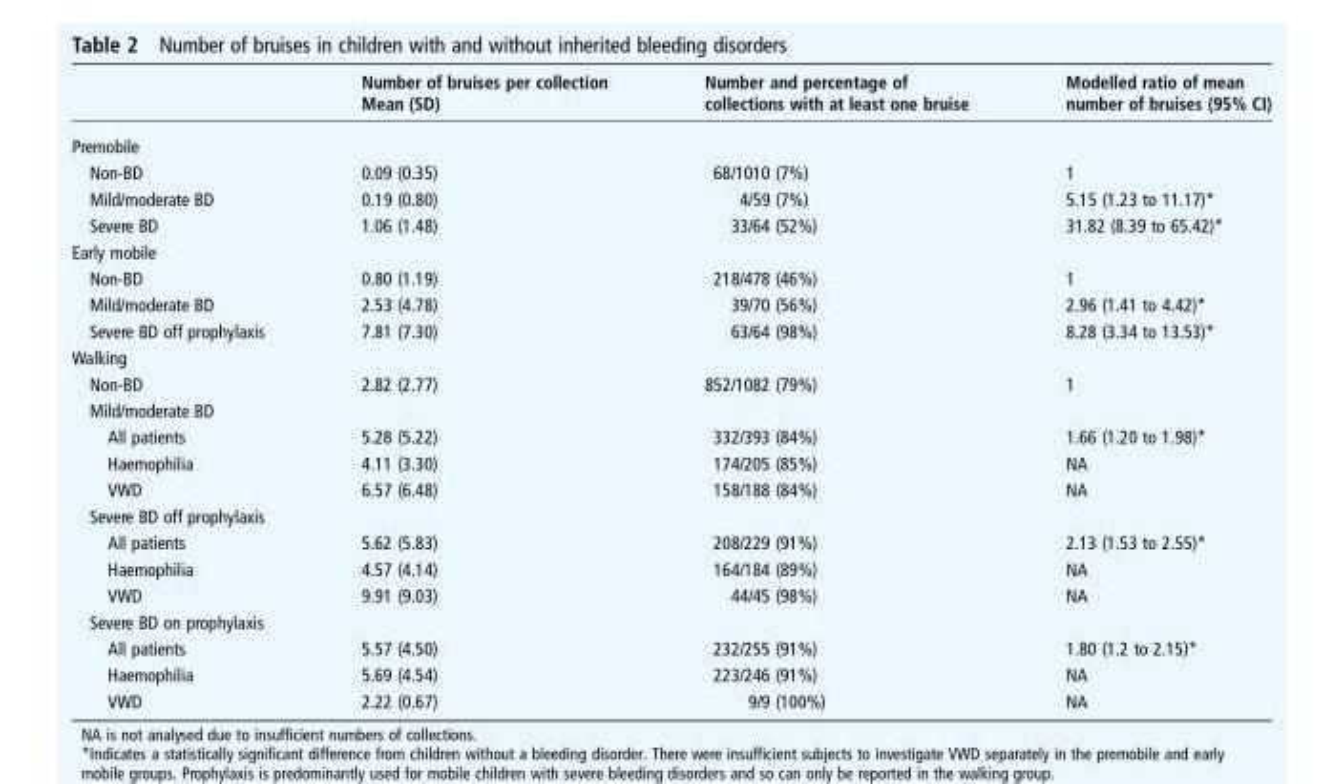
<table><thead><tr><td></td><td>Number of bruises per collection Mean (SD)</td><td>Number and percentage of collections with at least one bruise</td><td>Modelled ratio of mean number of bruises (95% CI)</td></tr></thead><tbody><tr><td colspan="4">Premobile</td></tr><tr><td>Non-BD</td><td>0.09 (0.35)</td><td>68/1010 (7%)</td><td>1</td></tr><tr><td>Mild/moderate BD</td><td>0.19 (0.80)</td><td>4/59 (7%)</td><td>5.15 (1.23 to 11.17)*</td></tr><tr><td>Severe BD</td><td>1.06 (1.48)</td><td>33/64 (52%)</td><td>31.82 (8.39 to 65.42)*</td></tr><tr><td colspan="4">Early mobile</td></tr><tr><td>Non-BD</td><td>0.80 (1.19)</td><td>218/478 (46%)</td><td>1</td></tr><tr><td>Mild/moderate BD</td><td>2.53 (4.78)</td><td>39/70 (56%)</td><td>2.96 (1.41 to 4.42)*</td></tr><tr><td>Severe BD off prophylaxis</td><td>7.81 (7.30)</td><td>63/64 (98%)</td><td>8.28 (3.34 to 13.53)*</td></tr><tr><td colspan="4">Walking</td></tr><tr><td>Non-BD</td><td>2.82 (2.77)</td><td>852/1082 (79%)</td><td>1</td></tr><tr><td colspan="4">Mild/moderate BD</td></tr><tr><td>All patients</td><td>5.28 (5.22)</td><td>332/393 (84%)</td><td>1.66 (1.20 to 1.98)*</td></tr><tr><td>Haemophilia</td><td>4.11 (3.30)</td><td>174/205 (85%)</td><td>NA</td></tr><tr><td>VWD</td><td>6.57 (6.48)</td><td>158/188 (84%)</td><td>NA</td></tr><tr><td colspan="4">Severe BD off prophylaxis</td></tr><tr><td>All patients</td><td>5.62 (5.83)</td><td>208/229 (91%)</td><td>2.13 (1.53 to 2.55)*</td></tr><tr><td>Haemophilia</td><td>4.57 (4.14)</td><td>164/184 (89%)</td><td>NA</td></tr><tr><td>VWD</td><td>9.91 (9.03)</td><td>44/45 (98%)</td><td>NA</td></tr><tr><td colspan="4">Severe BD on prophylaxis</td></tr><tr><td>All patients</td><td>5.57 (4.50)</td><td>232/255 (91%)</td><td>1.80 (1.2 to 2.15)*</td></tr><tr><td>Haemophilia</td><td>5.69 (4.54)</td><td>223/246 (91%)</td><td>NA</td></tr><tr><td>VWD</td><td>2.22 (0.67)</td><td>9/9 (100%)</td><td>NA</td></tr></tbody></table>